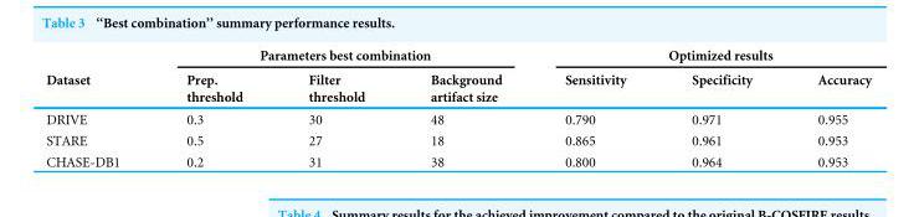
<table><thead><tr><td rowspan="2">Dataset</td><td colspan="3">Parameters best combination</td><td colspan="3">Optimized results</td></tr><tr><td>Prep. threshold</td><td>Filter threshold</td><td>Background artifact size</td><td>Sensitivity</td><td>Specificity</td><td>Accuracy</td></tr></thead><tbody><tr><td>DRIVE</td><td>0.3</td><td>30</td><td>48</td><td>0.790</td><td>0.971</td><td>0.955</td></tr><tr><td>STARE</td><td>0.5</td><td>27</td><td>18</td><td>0.865</td><td>0.961</td><td>0.953</td></tr><tr><td>CHASE-DB1</td><td>0.2</td><td>31</td><td>38</td><td>0.800</td><td>0.964</td><td>0.953</td></tr></tbody></table>